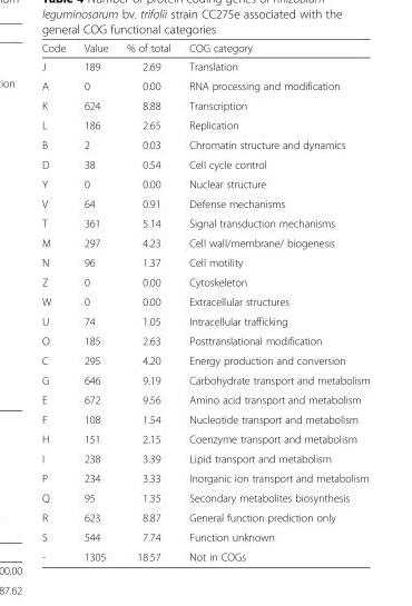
<table><thead><tr><td>Code</td><td>Value</td><td>% of total</td><td>COG category</td></tr></thead><tbody><tr><td>J</td><td>189</td><td>2.69</td><td>Translation</td></tr><tr><td>A</td><td>0</td><td>0.00</td><td>RNA processing and modification</td></tr><tr><td>K</td><td>624</td><td>8.88</td><td>Transcription</td></tr><tr><td>L</td><td>186</td><td>2.65</td><td>Replication</td></tr><tr><td>B</td><td>2</td><td>0.03</td><td>Chromatin structure and dynamics</td></tr><tr><td>D</td><td>38</td><td>0.54</td><td>Cell cycle control</td></tr><tr><td>Y</td><td>0</td><td>0.00</td><td>Nuclear structure</td></tr><tr><td>V</td><td>64</td><td>0.91</td><td>Defense mechanisms</td></tr><tr><td>T</td><td>361</td><td>5.14</td><td>Signal transduction mechanisms</td></tr><tr><td>M</td><td>297</td><td>4.23</td><td>Cell wall/membrane/ biogenesis</td></tr><tr><td>N</td><td>96</td><td>1.37</td><td>Cell motility</td></tr><tr><td>Z</td><td>0</td><td>0.00</td><td>Cytoskeleton</td></tr><tr><td>W</td><td>0</td><td>0.00</td><td>Extracellular structures</td></tr><tr><td>U</td><td>74</td><td>1.05</td><td>Intracellular trafficking</td></tr><tr><td>O</td><td>185</td><td>2.63</td><td>Posttranslational modification</td></tr><tr><td>C</td><td>295</td><td>4.20</td><td>Energy production and conversion</td></tr><tr><td>G</td><td>646</td><td>9.19</td><td>Carbohydrate transport and metabolism</td></tr><tr><td>E</td><td>672</td><td>9.56</td><td>Amino acid transport and metabolism</td></tr><tr><td>F</td><td>108</td><td>1.54</td><td>Nucleotide transport and metabolism</td></tr><tr><td>H</td><td>151</td><td>2.15</td><td>Coenzyme transport and metabolism</td></tr><tr><td>I</td><td>238</td><td>3.39</td><td>Lipid transport and metabolism</td></tr><tr><td>P</td><td>234</td><td>3.33</td><td>Inorganic ion transport and metabolism</td></tr><tr><td>Q</td><td>95</td><td>1.35</td><td>Secondary metabolites biosynthesis</td></tr><tr><td>R</td><td>623</td><td>8.87</td><td>General function prediction only</td></tr><tr><td>S</td><td>544</td><td>7.74</td><td>Function unknown</td></tr><tr><td>-</td><td>1305</td><td>18.57</td><td>Not in COGs</td></tr></tbody></table>